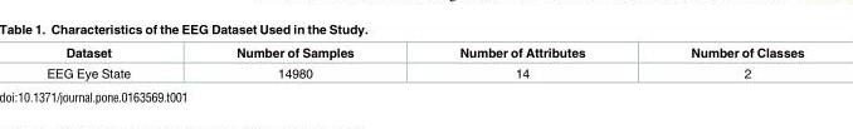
<table><thead><tr><td>Dataset</td><td>Number of Samples</td><td>Number of Attributes</td><td>Number of Classes</td></tr></thead><tbody><tr><td>EEG Eye State</td><td>14980</td><td>14</td><td>2</td></tr></tbody></table>